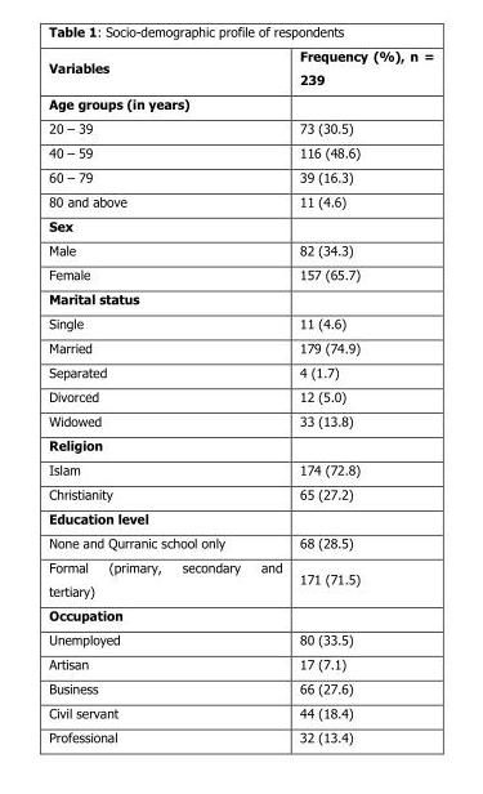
<table><thead><tr><td>Variables</td><td>Frequency (%), n = 239</td></tr></thead><tbody><tr><td colspan="2">Age groups (in years)</td></tr><tr><td>20 – 39</td><td>73 (30.5)</td></tr><tr><td>40 – 59</td><td>116 (48.6)</td></tr><tr><td>60 – 79</td><td>39 (16.3)</td></tr><tr><td>80 and above</td><td>11 (4.6)</td></tr><tr><td colspan="2">Sex</td></tr><tr><td>Male</td><td>82 (34.3)</td></tr><tr><td>Female</td><td>157 (65.7)</td></tr><tr><td colspan="2">Marital status</td></tr><tr><td>Single</td><td>11 (4.6)</td></tr><tr><td>Married</td><td>179 (74.9)</td></tr><tr><td>Separated</td><td>4 (1.7)</td></tr><tr><td>Divorced</td><td>12 (5.0)</td></tr><tr><td>Widowed</td><td>33 (13.8)</td></tr><tr><td colspan="2">Religion</td></tr><tr><td>Islam</td><td>174 (72.8)</td></tr><tr><td>Christianity</td><td>65 (27.2)</td></tr><tr><td colspan="2">Education level</td></tr><tr><td>None and Qurranic school only</td><td>68 (28.5)</td></tr><tr><td>Formal (primary, secondary and tertiary)</td><td>171 (71.5)</td></tr><tr><td colspan="2">Occupation</td></tr><tr><td>Unemployed</td><td>80 (33.5)</td></tr><tr><td>Artisan</td><td>17 (7.1)</td></tr><tr><td>Business</td><td>66 (27.6)</td></tr><tr><td>Civil servant</td><td>44 (18.4)</td></tr><tr><td>Professional</td><td>32 (13.4)</td></tr></tbody></table>